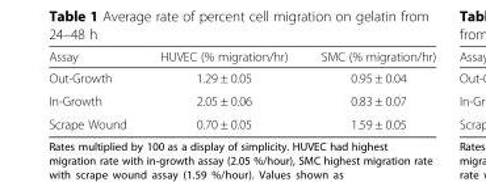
<table><thead><tr><td>Assay</td><td>HUVEC (% migration/hr)</td><td>SMC (% migration/hr)</td></tr></thead><tbody><tr><td>Out-Growth</td><td>1.29 ± 0.05</td><td>0.95 ± 0.04</td></tr><tr><td>In-Growth</td><td>2.05 ± 0.06</td><td>0.83 ± 0.07</td></tr><tr><td>Scrape Wound</td><td>0.70 ± 0.05</td><td>1.59 ± 0.05</td></tr></tbody></table>